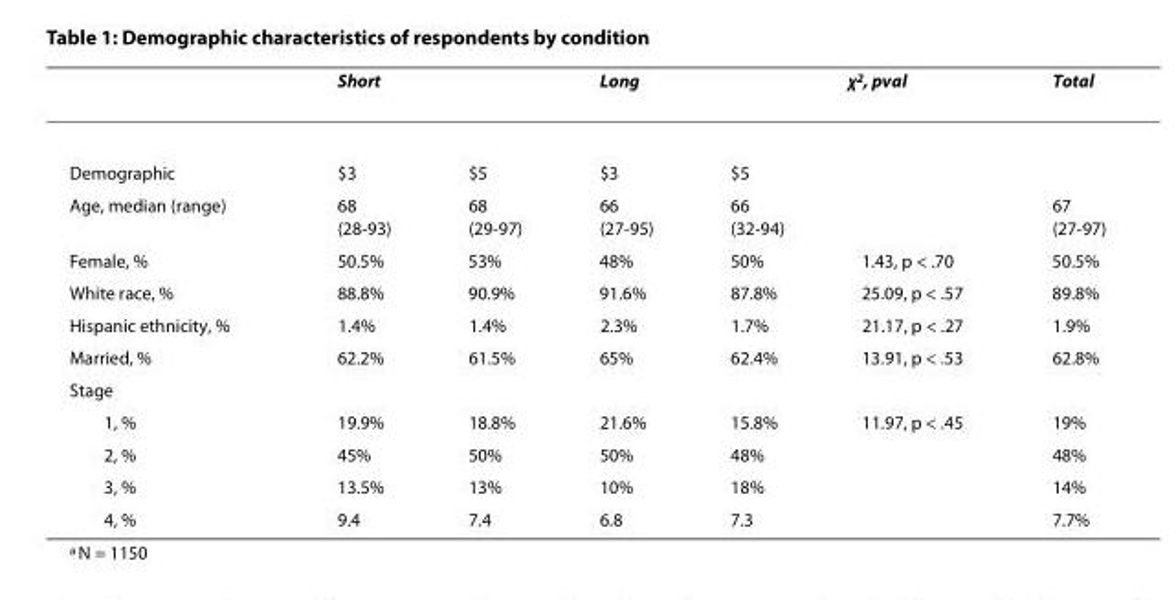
<table><thead><tr><td></td><td>Short</td><td></td><td>Long</td><td></td><td>χ<sup>2</sup>, pval</td><td>Total</td></tr></thead><tbody><tr><td>Demographic</td><td>$3</td><td>$5</td><td>$3</td><td>$5</td><td></td><td></td></tr><tr><td>Age, median (range)</td><td>68 (28-93)</td><td>68 (29-97)</td><td>66 (27-95)</td><td>66 (32-94)</td><td></td><td>67 (27-97)</td></tr><tr><td>Female, %</td><td>50.5%</td><td>53%</td><td>48%</td><td>50%</td><td>1.43, p &lt; .70</td><td>50.5%</td></tr><tr><td>White race, %</td><td>88.8%</td><td>90.9%</td><td>91.6%</td><td>87.8%</td><td>25.09, p &lt; .57</td><td>89.8%</td></tr><tr><td>Hispanic ethnicity, %</td><td>1.4%</td><td>1.4%</td><td>2.3%</td><td>1.7%</td><td>21.17, p &lt; .27</td><td>1.9%</td></tr><tr><td>Married, %</td><td>62.2%</td><td>61.5%</td><td>65%</td><td>62.4%</td><td>13.91, p &lt; .53</td><td>62.8%</td></tr><tr><td colspan="7">Stage</td></tr><tr><td>1, %</td><td>19.9%</td><td>18.8%</td><td>21.6%</td><td>15.8%</td><td>11.97, p &lt; .45</td><td>19%</td></tr><tr><td>2, %</td><td>45%</td><td>50%</td><td>50%</td><td>48%</td><td></td><td>48%</td></tr><tr><td>3, %</td><td>13.5%</td><td>13%</td><td>10%</td><td>18%</td><td></td><td>14%</td></tr><tr><td>4, %</td><td>9.4</td><td>7.4</td><td>6.8</td><td>7.3</td><td></td><td>7.7%</td></tr></tbody></table>